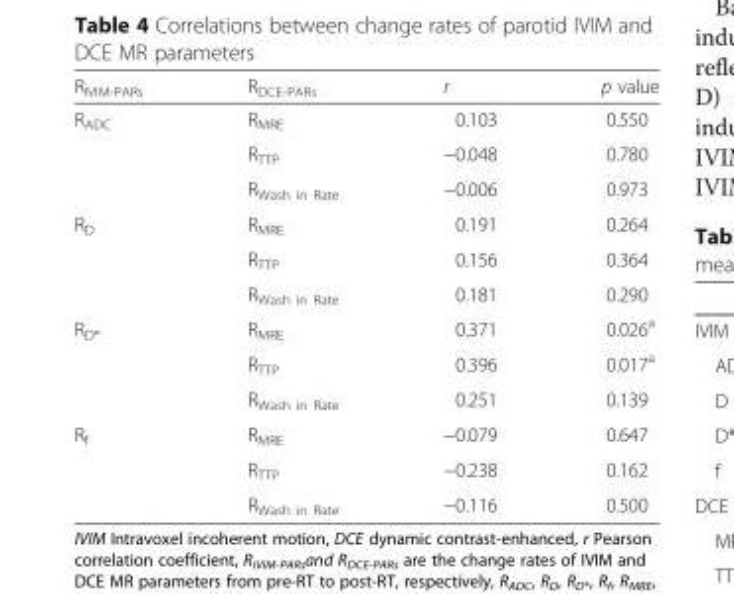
<table><thead><tr><td>R<sub>IVIM-PARs</sub></td><td>R<sub>DCE-PARs</sub></td><td>r</td><td>p value</td></tr></thead><tbody><tr><td rowspan="3">R<sub>ADC</sub></td><td>R<sub>MRE</sub></td><td>0.103</td><td>0.550</td></tr><tr><td>R<sub>TTP</sub></td><td>−0.048</td><td>0.780</td></tr><tr><td>R<sub>Wash in Rate</sub></td><td>−0.006</td><td>0.973</td></tr><tr><td rowspan="3">R<sub>D</sub></td><td>R<sub>MRE</sub></td><td>0.191</td><td>0.264</td></tr><tr><td>R<sub>TTP</sub></td><td>0.156</td><td>0.364</td></tr><tr><td>R<sub>Wash in Rate</sub></td><td>0.181</td><td>0.290</td></tr><tr><td rowspan="3">R<sub>D*</sub></td><td>R<sub>MRE</sub></td><td>0.371</td><td>0.026<sup>a</sup></td></tr><tr><td>R<sub>TTP</sub></td><td>0.396</td><td>0.017<sup>a</sup></td></tr><tr><td>R<sub>Wash in Rate</sub></td><td>0.251</td><td>0.139</td></tr><tr><td rowspan="3">R<sub>f</sub></td><td>R<sub>MRE</sub></td><td>−0.079</td><td>0.647</td></tr><tr><td>R<sub>TTP</sub></td><td>−0.238</td><td>0.162</td></tr><tr><td>R<sub>Wash in Rate</sub></td><td>−0.116</td><td>0.500</td></tr></tbody></table>